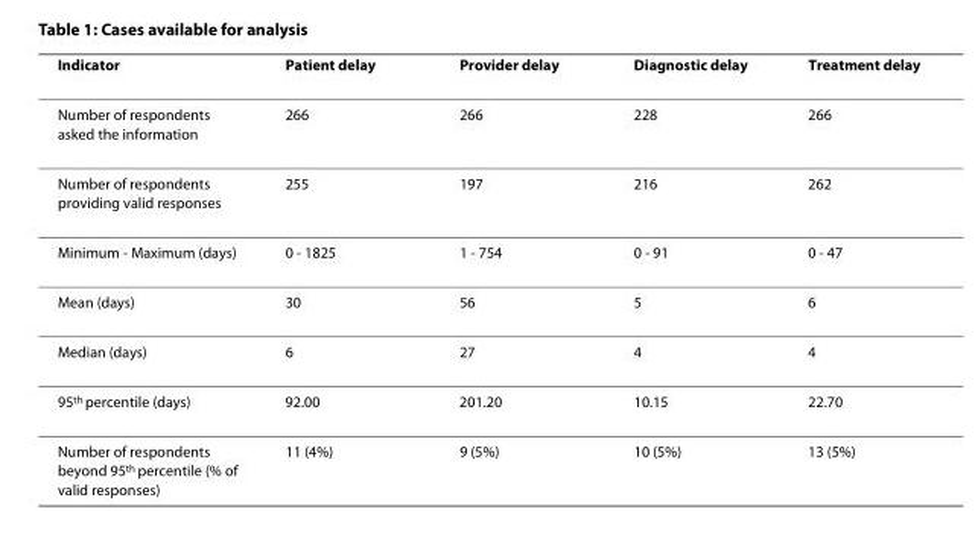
<table><thead><tr><td>Indicator</td><td>Patient delay</td><td>Provider delay</td><td>Diagnostic delay</td><td>Treatment delay</td></tr></thead><tbody><tr><td>Number of respondents asked the information</td><td>266</td><td>266</td><td>228</td><td>266</td></tr><tr><td>Number of respondents providing valid responses</td><td>255</td><td>197</td><td>216</td><td>262</td></tr><tr><td>Minimum - Maximum (days)</td><td>0 - 1825</td><td>1 - 754</td><td>0 - 91</td><td>0 - 47</td></tr><tr><td>Mean (days)</td><td>30</td><td>56</td><td>5</td><td>6</td></tr><tr><td>Median (days)</td><td>6</td><td>27</td><td>4</td><td>4</td></tr><tr><td>95<sup>th</sup> percentile (days)</td><td>92.00</td><td>201.20</td><td>10.15</td><td>22.70</td></tr><tr><td>Number of respondents beyond 95<sup>th</sup> percentile (% of valid responses)</td><td>11 (4%)</td><td>9 (5%)</td><td>10 (5%)</td><td>13 (5%)</td></tr></tbody></table>